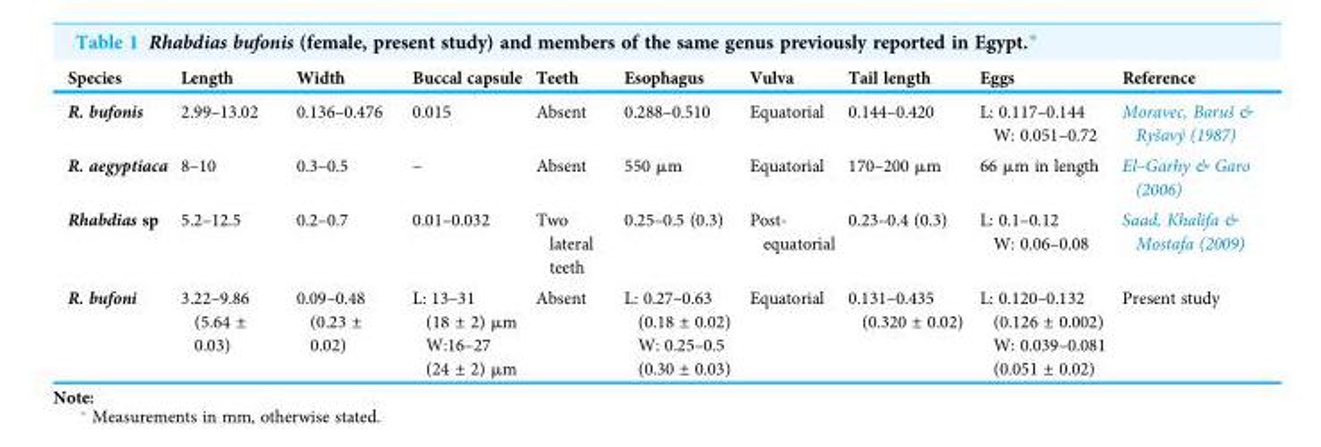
<table><thead><tr><td>Species</td><td>Length</td><td>Width</td><td>Buccal capsule</td><td>Teeth</td><td>Esophagus</td><td>Vulva</td><td>Tail length</td><td>Eggs</td><td>Reference</td></tr></thead><tbody><tr><td>R. bufonis</td><td>2.99–13.02</td><td>0.136–0.476</td><td>0.015</td><td>Absent</td><td>0.288–0.510</td><td>Equatorial</td><td>0.144–0.420</td><td>L: 0.117–0.144 W: 0.051–0.72</td><td>Moravec, Baruš &amp; Ryšavý (1987)</td></tr><tr><td>R. aegyptiaca</td><td>8–10</td><td>0.3–0.5</td><td>–</td><td>Absent</td><td>550 μm</td><td>Equatorial</td><td>170–200 μm</td><td>66 μm in length</td><td>El–Garhy &amp; Garo (2006)</td></tr><tr><td>Rhabdias sp</td><td>5.2–12.5</td><td>0.2–0.7</td><td>0.01–0.032</td><td>Two lateral teeth</td><td>0.25–0.5 (0.3)</td><td>Post- equatorial</td><td>0.23–0.4 (0.3)</td><td>L: 0.1–0.12 W: 0.06–0.08</td><td>Saad, Khalifa &amp; Mostafa (2009)</td></tr><tr><td>R. bufoni</td><td>3.22–9.86 (5.64 ± 0.03)</td><td>0.09–0.48 (0.23 ± 0.02)</td><td>L: 13–31 (18 ± 2) μm W:16–27 (24 ± 2) μm</td><td>Absent</td><td>L: 0.27–0.63 (0.18 ± 0.02) W: 0.25–0.5 (0.30 ± 0.03)</td><td>Equatorial</td><td>0.131–0.435 (0.320 ± 0.02)</td><td>L: 0.120–0.132 (0.126 ± 0.002) W: 0.039–0.081 (0.051 ± 0.02)</td><td>Present study</td></tr></tbody></table>